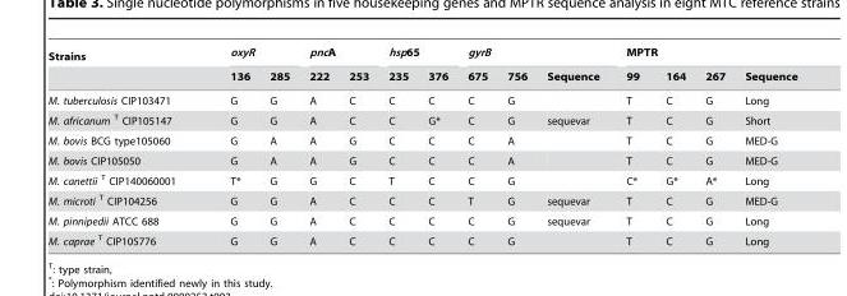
<table><thead><tr><td rowspan="2">Strains</td><td colspan="2">oxyR</td><td colspan="2">pncA</td><td colspan="2">hsp65</td><td colspan="3">gyrB</td><td colspan="4">MPTR</td></tr><tr><td>136</td><td>285</td><td>222</td><td>253</td><td>235</td><td>376</td><td>675</td><td>756</td><td>Sequence</td><td>99</td><td>164</td><td>267</td><td>Sequence</td></tr></thead><tbody><tr><td>M. tuberculosis CIP103471</td><td>G</td><td>G</td><td>A</td><td>C</td><td>C</td><td>C</td><td>C</td><td>G</td><td></td><td>T</td><td>C</td><td>G</td><td>Long</td></tr><tr><td>M. africanum T CIP105147</td><td>G</td><td>G</td><td>A</td><td>C</td><td>C</td><td>G*</td><td>C</td><td>G</td><td>sequevar</td><td>T</td><td>C</td><td>G</td><td>Short</td></tr><tr><td>M. bovis BCG type105060</td><td>G</td><td>A</td><td>A</td><td>G</td><td>C</td><td>C</td><td>C</td><td>A</td><td></td><td>T</td><td>C</td><td>G</td><td>MED-G</td></tr><tr><td>M. bovis CIP105050</td><td>G</td><td>A</td><td>A</td><td>G</td><td>C</td><td>C</td><td>C</td><td>A</td><td></td><td>T</td><td>C</td><td>G</td><td>MED-G</td></tr><tr><td>M. canettii T CIP140060001</td><td>T*</td><td>G</td><td>G</td><td>C</td><td>T</td><td>C</td><td>C</td><td>G</td><td></td><td>C*</td><td>G*</td><td>A*</td><td>Long</td></tr><tr><td>M. microti T CIP104256</td><td>G</td><td>G</td><td>A</td><td>C</td><td>C</td><td>C</td><td>T</td><td>G</td><td>sequevar</td><td>T</td><td>C</td><td>G</td><td>MED-G</td></tr><tr><td>M. pinnipedii ATCC 688</td><td>G</td><td>G</td><td>A</td><td>C</td><td>C</td><td>C</td><td>C</td><td>G</td><td>sequevar</td><td>T</td><td>C</td><td>G</td><td>Long</td></tr><tr><td>M. caprae T CIP105776</td><td>G</td><td>G</td><td>A</td><td>C</td><td>C</td><td>C</td><td>C</td><td>G</td><td></td><td>T</td><td>C</td><td>G</td><td>Long</td></tr></tbody></table>